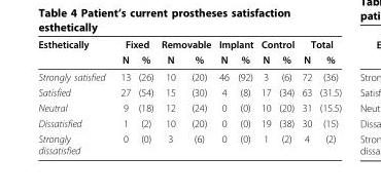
<table><thead><tr><td rowspan="2">Esthetically</td><td colspan="2">Fixed</td><td colspan="2">Removable</td><td colspan="2">Implant</td><td colspan="2">Control</td><td colspan="2">Total</td></tr><tr><td>N</td><td>%</td><td>N</td><td>%</td><td>N</td><td>%</td><td>N</td><td>%</td><td>N</td><td>%</td></tr></thead><tbody><tr><td>Strongly satisfied</td><td>13</td><td>(26)</td><td>10</td><td>(20)</td><td>46</td><td>(92)</td><td>3</td><td>(6)</td><td>72</td><td>(36)</td></tr><tr><td>Satisfied</td><td>27</td><td>(54)</td><td>15</td><td>(30)</td><td>4</td><td>(8)</td><td>17</td><td>(34)</td><td>63</td><td>(31.5)</td></tr><tr><td>Neutral</td><td>9</td><td>(18)</td><td>12</td><td>(24)</td><td>0</td><td>(0)</td><td>10</td><td>(20)</td><td>31</td><td>(15.5)</td></tr><tr><td>Dissatisfied</td><td>1</td><td>(2)</td><td>10</td><td>(20)</td><td>0</td><td>(0)</td><td>19</td><td>(38)</td><td>30</td><td>(15)</td></tr><tr><td>Strongly dissatisfied</td><td>0</td><td>(0)</td><td>3</td><td>(6)</td><td>0</td><td>(0)</td><td>1</td><td>(2)</td><td>4</td><td>(2)</td></tr></tbody></table>